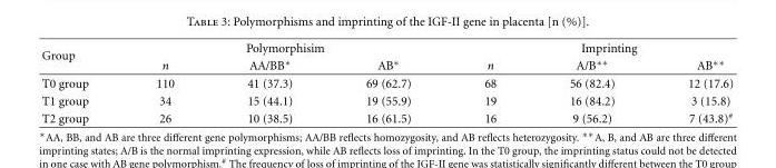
<table><thead><tr><td rowspan="2">Group</td><td colspan="3">Polymorphisim</td><td colspan="3">Imprinting</td></tr><tr><td>n</td><td>AA/BB∗</td><td>AB∗</td><td>n</td><td>A/B∗∗</td><td>AB∗∗</td></tr></thead><tbody><tr><td>T0 group</td><td>110</td><td>41 (37.3)</td><td>69 (62.7)</td><td>68</td><td>56 (82.4)</td><td>12 (17.6)</td></tr><tr><td>T1 group</td><td>34</td><td>15 (44.1)</td><td>19 (55.9)</td><td>19</td><td>16 (84.2)</td><td>3 (15.8)</td></tr><tr><td>T2 group</td><td>26</td><td>10 (38.5)</td><td>16 (61.5)</td><td>16</td><td>9 (56.2)</td><td>7 (43.8)<sup>#</sup></td></tr></tbody></table>